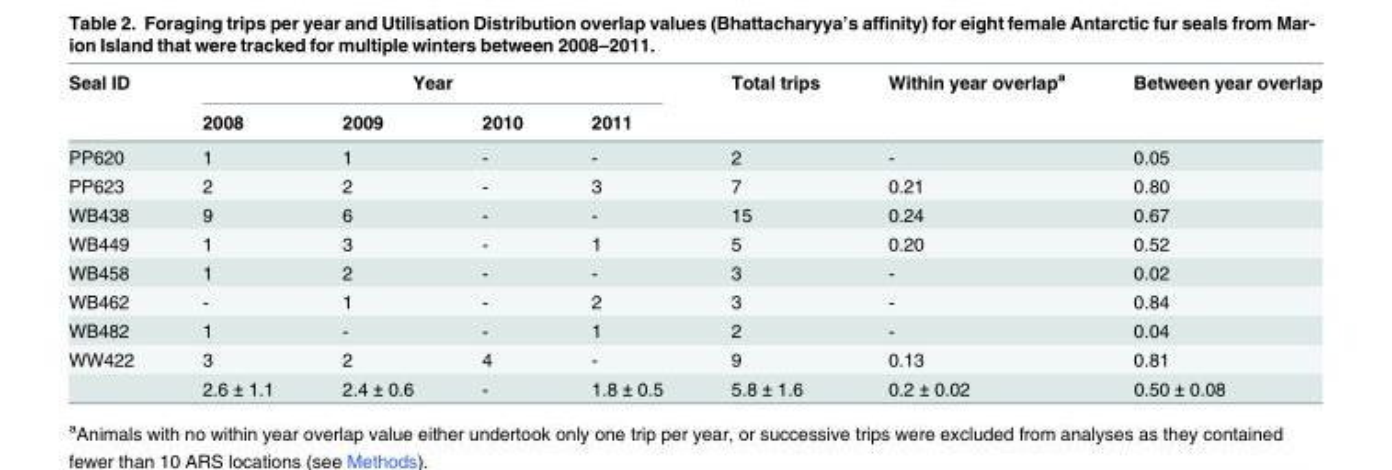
<table><thead><tr><td rowspan="2">Seal ID</td><td colspan="4">Year</td><td rowspan="2">Total trips</td><td rowspan="2">Within year overlap<sup>a</sup></td><td rowspan="2">Between year overlap</td></tr><tr><td>2008</td><td>2009</td><td>2010</td><td>2011</td></tr></thead><tbody><tr><td>PP620</td><td>1</td><td>1</td><td>-</td><td>-</td><td>2</td><td>-</td><td>0.05</td></tr><tr><td>PP623</td><td>2</td><td>2</td><td>-</td><td>3</td><td>7</td><td>0.21</td><td>0.80</td></tr><tr><td>WB438</td><td>9</td><td>6</td><td>-</td><td>-</td><td>15</td><td>0.24</td><td>0.67</td></tr><tr><td>WB449</td><td>1</td><td>3</td><td>-</td><td>1</td><td>5</td><td>0.20</td><td>0.52</td></tr><tr><td>WB458</td><td>1</td><td>2</td><td>-</td><td>-</td><td>3</td><td>-</td><td>0.02</td></tr><tr><td>WB462</td><td>-</td><td>1</td><td>-</td><td>2</td><td>3</td><td>-</td><td>0.84</td></tr><tr><td>WB482</td><td>1</td><td>-</td><td>-</td><td>1</td><td>2</td><td>-</td><td>0.04</td></tr><tr><td rowspan="2">WW422</td><td>3</td><td>2</td><td>4</td><td>-</td><td>9</td><td>0.13</td><td>0.81</td></tr><tr><td>2.6 ± 1.1</td><td>2.4 ± 0.6</td><td>-</td><td>1.8 ± 0.5</td><td>5.8 ± 1.6</td><td>0.2 ± 0.02</td><td>0.50 ± 0.08</td></tr></tbody></table>